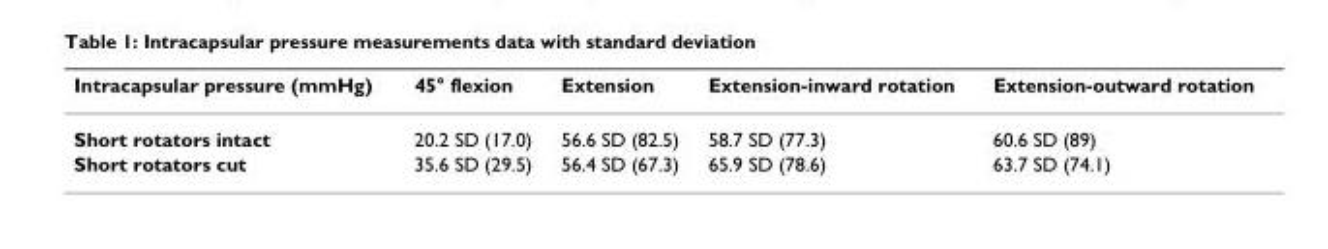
<table><thead><tr><td>Intracapsular pressure (mmHg)</td><td>45° flexion</td><td>Extension</td><td>Extension-inward rotation</td><td>Extension-outward rotation</td></tr></thead><tbody><tr><td>Short rotators intact</td><td>20.2 SD (17.0)</td><td>56.6 SD (82.5)</td><td>58.7 SD (77.3)</td><td>60.6 SD (89)</td></tr><tr><td>Short rotators cut</td><td>35.6 SD (29.5)</td><td>56.4 SD (67.3)</td><td>65.9 SD (78.6)</td><td>63.7 SD (74.1)</td></tr></tbody></table>